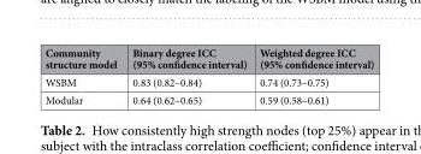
<table><thead><tr><td>Community structure model</td><td>Binary degree ICC (95% confidence interval)</td><td>Weighted degree ICC (95% confidence interval)</td></tr></thead><tbody><tr><td>WSBM</td><td>0.83 (0.82–0.84)</td><td>0.74 (0.73–0.75)</td></tr><tr><td>Modular</td><td>0.64 (0.62–0.65)</td><td>0.59 (0.58–0.61)</td></tr></tbody></table>